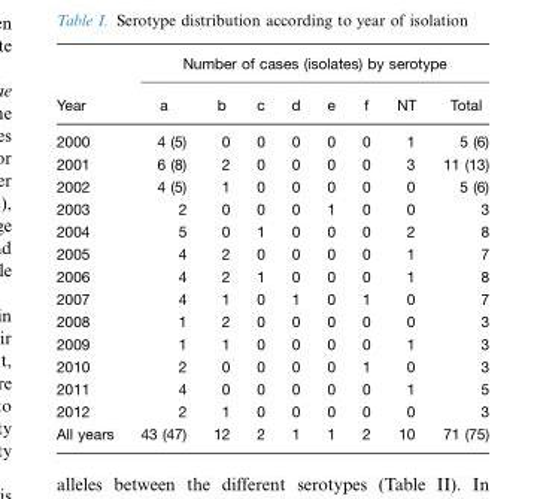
<table><thead><tr><td rowspan="2">Year</td><td colspan="8">Number of cases (isolates) by serotype</td></tr><tr><td>a</td><td>b</td><td>c</td><td>d</td><td>e</td><td>f</td><td>NT</td><td>Total</td></tr></thead><tbody><tr><td>2000</td><td>4 (5)</td><td>0</td><td>0</td><td>0</td><td>0</td><td>0</td><td>1</td><td>5 (6)</td></tr><tr><td>2001</td><td>6 (8)</td><td>2</td><td>0</td><td>0</td><td>0</td><td>0</td><td>3</td><td>11 (13)</td></tr><tr><td>2002</td><td>4 (5)</td><td>1</td><td>0</td><td>0</td><td>0</td><td>0</td><td>0</td><td>5 (6)</td></tr><tr><td>2003</td><td>2</td><td>0</td><td>0</td><td>0</td><td>1</td><td>0</td><td>0</td><td>3</td></tr><tr><td>2004</td><td>5</td><td>0</td><td>1</td><td>0</td><td>0</td><td>0</td><td>2</td><td>8</td></tr><tr><td>2005</td><td>4</td><td>2</td><td>0</td><td>0</td><td>0</td><td>0</td><td>1</td><td>7</td></tr><tr><td>2006</td><td>4</td><td>2</td><td>1</td><td>0</td><td>0</td><td>0</td><td>1</td><td>8</td></tr><tr><td>2007</td><td>4</td><td>1</td><td>0</td><td>1</td><td>0</td><td>1</td><td>0</td><td>7</td></tr><tr><td>2008</td><td>1</td><td>2</td><td>0</td><td>0</td><td>0</td><td>0</td><td>0</td><td>3</td></tr><tr><td>2009</td><td>1</td><td>1</td><td>0</td><td>0</td><td>0</td><td>0</td><td>1</td><td>3</td></tr><tr><td>2010</td><td>2</td><td>0</td><td>0</td><td>0</td><td>0</td><td>1</td><td>0</td><td>3</td></tr><tr><td>2011</td><td>4</td><td>0</td><td>0</td><td>0</td><td>0</td><td>0</td><td>1</td><td>5</td></tr><tr><td>2012</td><td>2</td><td>1</td><td>0</td><td>0</td><td>0</td><td>0</td><td>0</td><td>3</td></tr><tr><td>All years</td><td>43 (47)</td><td>12</td><td>2</td><td>1</td><td>1</td><td>2</td><td>10</td><td>71 (75)</td></tr></tbody></table>